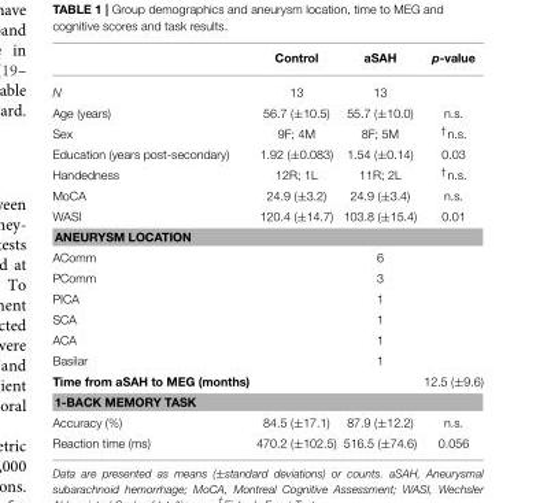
<table><thead><tr><td></td><td>Control</td><td>aSAH</td><td>p-value</td></tr></thead><tbody><tr><td>N</td><td>13</td><td>13</td><td></td></tr><tr><td>Age (years)</td><td>56.7 (±10.5)</td><td>55.7 (±10.0)</td><td>n.s.</td></tr><tr><td>Sex</td><td>9F; 4M</td><td>8F; 5M</td><td><sup>†</sup>n.s.</td></tr><tr><td>Education (years post-secondary)</td><td>1.92 (±0.083)</td><td>1.54 (±0.14)</td><td>0.03</td></tr><tr><td>Handedness</td><td>12R; 1L</td><td>11R; 2L</td><td><sup>†</sup>n.s.</td></tr><tr><td>MoCA</td><td>24.9 (±3.2)</td><td>24.9 (±3.4)</td><td>n.s.</td></tr><tr><td>WASI</td><td>120.4 (±14.7)</td><td>103.8 (±15.4)</td><td>0.01</td></tr><tr><td colspan="4">ANEURYSM LOCATION</td></tr><tr><td>AComm</td><td></td><td>6</td><td></td></tr><tr><td>PComm</td><td></td><td>3</td><td></td></tr><tr><td>PICA</td><td></td><td>1</td><td></td></tr><tr><td>SCA</td><td></td><td>1</td><td></td></tr><tr><td>ACA</td><td></td><td>1</td><td></td></tr><tr><td>Basilar</td><td></td><td>1</td><td></td></tr><tr><td>Time from aSAH to MEG (months)</td><td></td><td></td><td>12.5 (±9.6)</td></tr><tr><td colspan="4">1-BACK MEMORY TASK</td></tr><tr><td>Accuracy (%)</td><td>84.5 (±17.1)</td><td>87.9 (±12.2)</td><td>n.s.</td></tr><tr><td>Reaction time (ms)</td><td>470.2 (±102.5)</td><td>516.5 (±74.6)</td><td>0.056</td></tr></tbody></table>